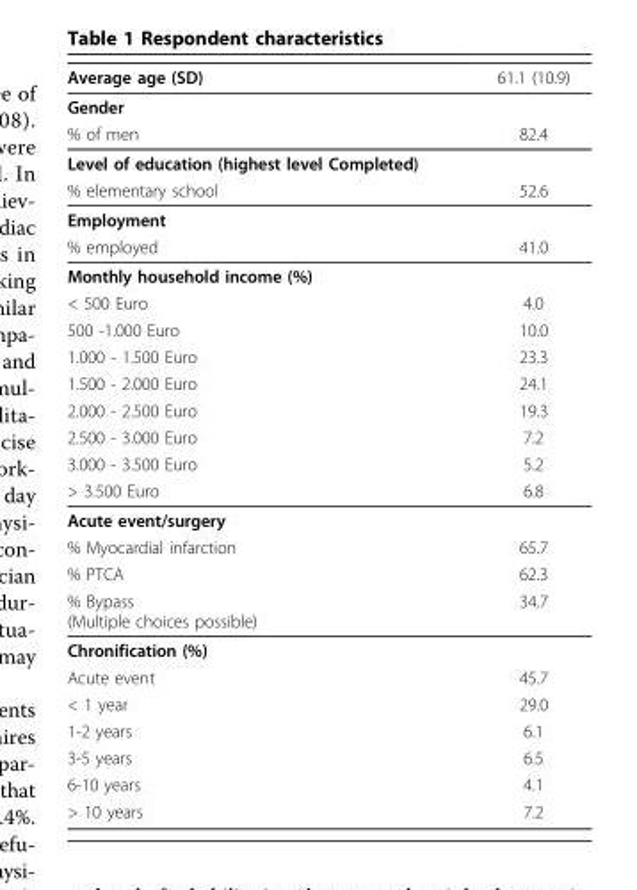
<table><thead><tr><td>Average age (SD)</td><td>61.1 (10.9)</td></tr></thead><tbody><tr><td colspan="2">Gender</td></tr><tr><td>% of men</td><td>82.4</td></tr><tr><td colspan="2">Level of education (highest level Completed)</td></tr><tr><td>% elementary school</td><td>52.6</td></tr><tr><td colspan="2">Employment</td></tr><tr><td>% employed</td><td>41.0</td></tr><tr><td colspan="2">Monthly household income (%)</td></tr><tr><td>&lt; 500 Euro</td><td>4.0</td></tr><tr><td>500 -1.000 Euro</td><td>10.0</td></tr><tr><td>1.000 - 1.500 Euro</td><td>23.3</td></tr><tr><td>1.500 - 2.000 Euro</td><td>24.1</td></tr><tr><td>2.000 - 2.500 Euro</td><td>19.3</td></tr><tr><td>2.500 - 3.000 Euro</td><td>7.2</td></tr><tr><td>3.000 - 3.500 Euro</td><td>5.2</td></tr><tr><td>&gt; 3.500 Euro</td><td>6.8</td></tr><tr><td colspan="2">Acute event/surgery</td></tr><tr><td>% Myocardial infarction</td><td>65.7</td></tr><tr><td>% PTCA</td><td>62.3</td></tr><tr><td>% Bypass (Multiple choices possible)</td><td>34.7</td></tr><tr><td colspan="2">Chronification (%)</td></tr><tr><td>Acute event</td><td>45.7</td></tr><tr><td>&lt; 1 year</td><td>29.0</td></tr><tr><td>1-2 years</td><td>6.1</td></tr><tr><td>3-5 years</td><td>6.5</td></tr><tr><td>6-10 years</td><td>4.1</td></tr><tr><td>&gt; 10 years</td><td>7.2</td></tr></tbody></table>